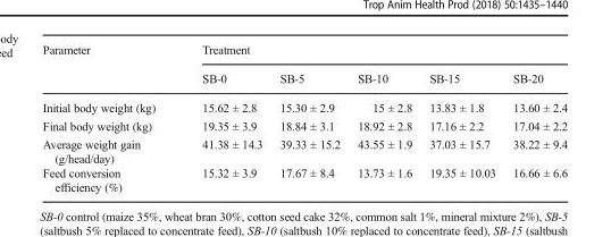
<table><thead><tr><td rowspan="2">Parameter</td><td colspan="5">Treatment</td></tr><tr><td>SB-0</td><td>SB-5</td><td>SB-10</td><td>SB-15</td><td>SB-20</td></tr></thead><tbody><tr><td>Initial body weight (kg)</td><td>15.62 ± 2.8</td><td>15.30 ± 2.9</td><td>15 ± 2.8</td><td>13.83 ± 1.8</td><td>13.60 ± 2.4</td></tr><tr><td>Final body weight (kg)</td><td>19.35 ± 3.9</td><td>18.84 ± 3.1</td><td>18.92 ± 2.8</td><td>17.16 ± 2.2</td><td>17.04 ± 2.2</td></tr><tr><td>Average weight gain (g/head/day)</td><td>41.38 ± 14.3</td><td>39.33 ± 15.2</td><td>43.55 ± 1.9</td><td>37.03 ± 15.7</td><td>38.22 ± 9.4</td></tr><tr><td>Feed conversion efficiency (%)</td><td>15.32 ± 3.9</td><td>17.67 ± 8.4</td><td>13.73 ± 1.6</td><td>19.35 ± 10.03</td><td>16.66 ± 6.6</td></tr></tbody></table>